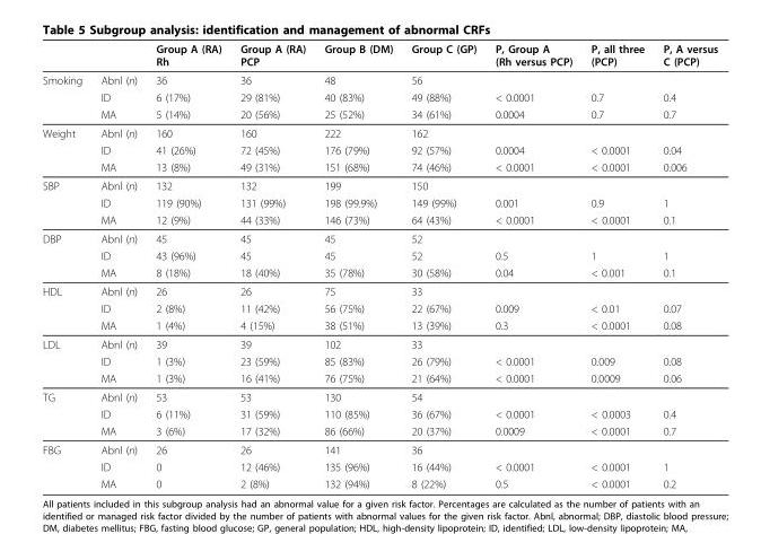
<table><thead><tr><td></td><td></td><td>Group A (RA) Rh</td><td>Group A (RA) PCP</td><td>Group B (DM)</td><td>Group C (GP)</td><td>P, Group A (Rh versus PCP)</td><td>P, all three (PCP)</td><td>P, A versus C (PCP)</td></tr></thead><tbody><tr><td rowspan="3">Smoking</td><td>Abnl (n)</td><td>36</td><td>36</td><td>48</td><td>56</td><td></td><td></td><td></td></tr><tr><td>ID</td><td>6 (17%)</td><td>29 (81%)</td><td>40 (83%)</td><td>49 (88%)</td><td>&lt; 0.0001</td><td>0.7</td><td>0.4</td></tr><tr><td>MA</td><td>5 (14%)</td><td>20 (56%)</td><td>25 (52%)</td><td>34 (61%)</td><td>0.0004</td><td>0.7</td><td>0.7</td></tr><tr><td rowspan="3">Weight</td><td>Abnl (n)</td><td>160</td><td>160</td><td>222</td><td>162</td><td></td><td></td><td></td></tr><tr><td>ID</td><td>41 (26%)</td><td>72 (45%)</td><td>176 (79%)</td><td>92 (57%)</td><td>0.0004</td><td>&lt; 0.0001</td><td>0.04</td></tr><tr><td>MA</td><td>13 (8%)</td><td>49 (31%)</td><td>151 (68%)</td><td>74 (46%)</td><td>&lt; 0.0001</td><td>&lt; 0.0001</td><td>0.006</td></tr><tr><td rowspan="3">SBP</td><td>Abnl (n)</td><td>132</td><td>132</td><td>199</td><td>150</td><td></td><td></td><td></td></tr><tr><td>ID</td><td>119 (90%)</td><td>131 (99%)</td><td>198 (99.9%)</td><td>149 (99%)</td><td>0.001</td><td>0.9</td><td>1</td></tr><tr><td>MA</td><td>12 (9%)</td><td>44 (33%)</td><td>146 (73%)</td><td>64 (43%)</td><td>&lt; 0.0001</td><td>&lt; 0.0001</td><td>0.1</td></tr><tr><td rowspan="3">DBP</td><td>Abnl (n)</td><td>45</td><td>45</td><td>45</td><td>52</td><td></td><td></td><td></td></tr><tr><td>ID</td><td>43 (96%)</td><td>45</td><td>45</td><td>52</td><td>0.5</td><td>1</td><td>1</td></tr><tr><td>MA</td><td>8 (18%)</td><td>18 (40%)</td><td>35 (78%)</td><td>30 (58%)</td><td>0.04</td><td>&lt; 0.001</td><td>0.1</td></tr><tr><td rowspan="3">HDL</td><td>Abnl (n)</td><td>26</td><td>26</td><td>75</td><td>33</td><td></td><td></td><td></td></tr><tr><td>ID</td><td>2 (8%)</td><td>11 (42%)</td><td>56 (75%)</td><td>22 (67%)</td><td>0.009</td><td>&lt; 0.01</td><td>0.07</td></tr><tr><td>MA</td><td>1 (4%)</td><td>4 (15%)</td><td>38 (51%)</td><td>13 (39%)</td><td>0.3</td><td>&lt; 0.0001</td><td>0.08</td></tr><tr><td rowspan="3">LDL</td><td>Abnl (n)</td><td>39</td><td>39</td><td>102</td><td>33</td><td></td><td></td><td></td></tr><tr><td>ID</td><td>1 (3%)</td><td>23 (59%)</td><td>85 (83%)</td><td>26 (79%)</td><td>&lt; 0.0001</td><td>0.009</td><td>0.08</td></tr><tr><td>MA</td><td>1 (3%)</td><td>16 (41%)</td><td>76 (75%)</td><td>21 (64%)</td><td>&lt; 0.0001</td><td>0.0009</td><td>0.06</td></tr><tr><td rowspan="3">TG</td><td>Abnl (n)</td><td>53</td><td>53</td><td>130</td><td>54</td><td></td><td></td><td></td></tr><tr><td>ID</td><td>6 (11%)</td><td>31 (59%)</td><td>110 (85%)</td><td>36 (67%)</td><td>&lt; 0.0001</td><td>&lt; 0.0003</td><td>0.4</td></tr><tr><td>MA</td><td>3 (6%)</td><td>17 (32%)</td><td>86 (66%)</td><td>20 (37%)</td><td>0.0009</td><td>&lt; 0.0001</td><td>0.7</td></tr><tr><td rowspan="3">FBG</td><td>Abnl (n)</td><td>26</td><td>26</td><td>141</td><td>36</td><td></td><td></td><td></td></tr><tr><td>ID</td><td>0</td><td>12 (46%)</td><td>135 (96%)</td><td>16 (44%)</td><td>&lt; 0.0001</td><td>&lt; 0.0001</td><td>1</td></tr><tr><td>MA</td><td>0</td><td>2 (8%)</td><td>132 (94%)</td><td>8 (22%)</td><td>0.5</td><td>&lt; 0.0001</td><td>0.2</td></tr></tbody></table>